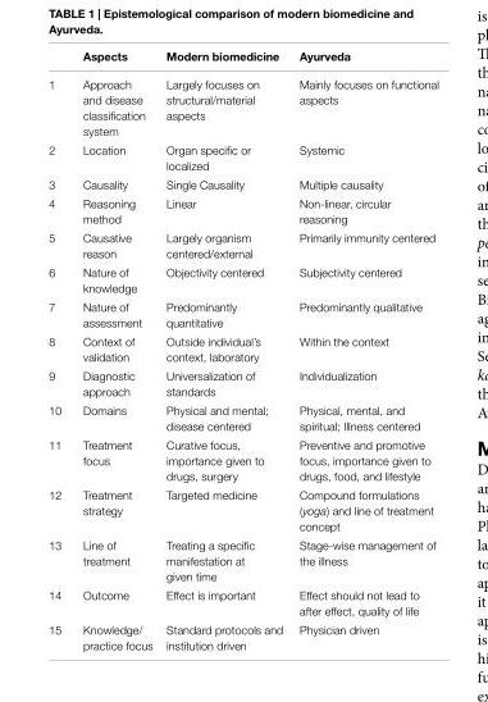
<table><thead><tr><td></td><td>Aspects</td><td>Modern biomedicine</td><td>Ayurveda</td></tr></thead><tbody><tr><td>1</td><td>Approach and disease classification system</td><td>Largely focuses on structural/material aspects</td><td>Mainly focuses on functional aspects</td></tr><tr><td>2</td><td>Location</td><td>Organ specific or localized</td><td>Systemic</td></tr><tr><td>3</td><td>Causality</td><td>Single Causality</td><td>Multiple causality</td></tr><tr><td>4</td><td>Reasoning method</td><td>Linear</td><td>Non-linear, circular reasoning</td></tr><tr><td>5</td><td>Causative reason</td><td>Largely organism centered/external</td><td>Primarily immunity centered</td></tr><tr><td>6</td><td>Nature of knowledge</td><td>Objectivity centered</td><td>Subjectivity centered</td></tr><tr><td>7</td><td>Nature of assessment</td><td>Predominantly quantitative</td><td>Predominantly qualitative</td></tr><tr><td>8</td><td>Context of validation</td><td>Outside individual’s context, laboratory</td><td>Within the context</td></tr><tr><td>9</td><td>Diagnostic approach</td><td>Universalization of standards</td><td>Individualization</td></tr><tr><td>10</td><td>Domains</td><td>Physical and mental; disease centered</td><td>Physical, mental, and spiritual; Illness centered</td></tr><tr><td>11</td><td>Treatment focus</td><td>Curative focus, importance given to drugs, surgery</td><td>Preventive and promotive focus, importance given to drugs, food, and lifestyle</td></tr><tr><td>12</td><td>Treatment strategy</td><td>Targeted medicine</td><td>Compound formulations (yoga) and line of treatment concept</td></tr><tr><td>13</td><td>Line of treatment</td><td>Treating a specific manifestation at given time</td><td>Stage-wise management of the illness</td></tr><tr><td>14</td><td>Outcome</td><td>Effect is important</td><td>Effect should not lead to after effect, quality of life</td></tr><tr><td>15</td><td>Knowledge/ practice focus</td><td>Standard protocols and institution driven</td><td>Physician driven</td></tr></tbody></table>